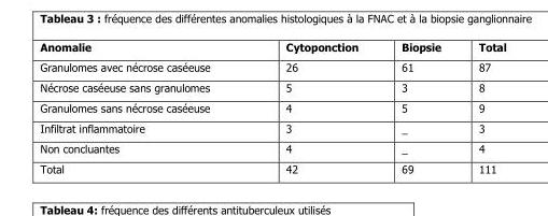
<table><thead><tr><td>Anomalie</td><td>Cytoponction</td><td>Biopsie</td><td>Total</td></tr></thead><tbody><tr><td>Granulomes avec nécrose caséeuse</td><td>26</td><td>61</td><td>87</td></tr><tr><td>Nécrose caséeuse sans granulomes</td><td>5</td><td>3</td><td>8</td></tr><tr><td>Granulomes sans nécrose caséeuse</td><td>4</td><td>5</td><td>9</td></tr><tr><td>Infiltrat inflammatoire</td><td>3</td><td>_</td><td>3</td></tr><tr><td>Non concluantes</td><td>4</td><td>_</td><td>4</td></tr><tr><td>Total</td><td>42</td><td>69</td><td>111</td></tr></tbody></table>